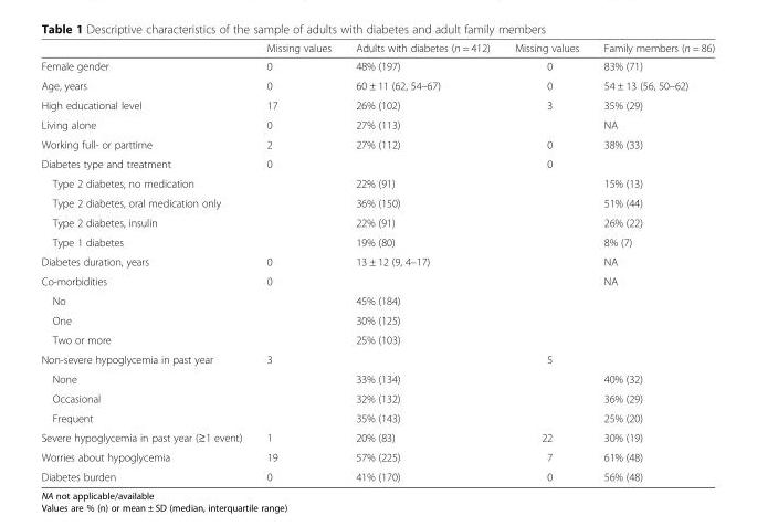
<table><thead><tr><td></td><td>Missing values</td><td>Adults with diabetes (n = 412)</td><td>Missing values</td><td>Family members (n = 86)</td></tr></thead><tbody><tr><td>Female gender</td><td>0</td><td>48% (197)</td><td>0</td><td>83% (71)</td></tr><tr><td>Age, years</td><td>0</td><td>60 ± 11 (62, 54–67)</td><td>0</td><td>54 ± 13 (56, 50–62)</td></tr><tr><td>High educational level</td><td>17</td><td>26% (102)</td><td>3</td><td>35% (29)</td></tr><tr><td>Living alone</td><td>0</td><td>27% (113)</td><td></td><td>NA</td></tr><tr><td>Working full- or parttime</td><td>2</td><td>27% (112)</td><td>0</td><td>38% (33)</td></tr><tr><td>Diabetes type and treatment</td><td>0</td><td></td><td>0</td><td></td></tr><tr><td>Type 2 diabetes, no medication</td><td></td><td>22% (91)</td><td></td><td>15% (13)</td></tr><tr><td>Type 2 diabetes, oral medication only</td><td></td><td>36% (150)</td><td></td><td>51% (44)</td></tr><tr><td>Type 2 diabetes, insulin</td><td></td><td>22% (91)</td><td></td><td>26% (22)</td></tr><tr><td>Type 1 diabetes</td><td></td><td>19% (80)</td><td></td><td>8% (7)</td></tr><tr><td>Diabetes duration, years</td><td>0</td><td>13 ± 12 (9, 4–17)</td><td></td><td>NA</td></tr><tr><td>Co-morbidities</td><td>0</td><td></td><td></td><td>NA</td></tr><tr><td>No</td><td></td><td>45% (184)</td><td></td><td></td></tr><tr><td>One</td><td></td><td>30% (125)</td><td></td><td></td></tr><tr><td>Two or more</td><td></td><td>25% (103)</td><td></td><td></td></tr><tr><td>Non-severe hypoglycemia in past year</td><td>3</td><td></td><td>5</td><td></td></tr><tr><td>None</td><td></td><td>33% (134)</td><td></td><td>40% (32)</td></tr><tr><td>Occasional</td><td></td><td>32% (132)</td><td></td><td>36% (29)</td></tr><tr><td>Frequent</td><td></td><td>35% (143)</td><td></td><td>25% (20)</td></tr><tr><td>Severe hypoglycemia in past year (≥1 event)</td><td>1</td><td>20% (83)</td><td>22</td><td>30% (19)</td></tr><tr><td>Worries about hypoglycemia</td><td>19</td><td>57% (225)</td><td>7</td><td>61% (48)</td></tr><tr><td>Diabetes burden</td><td>0</td><td>41% (170)</td><td>0</td><td>56% (48)</td></tr></tbody></table>